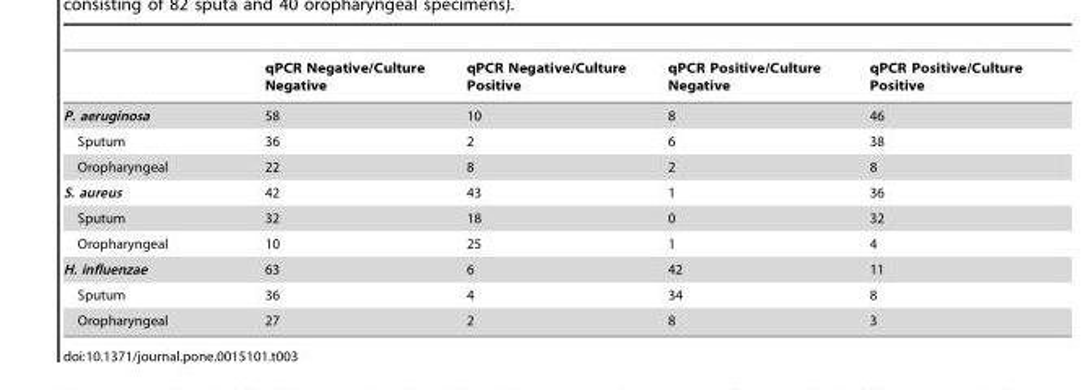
<table><thead><tr><td></td><td>qPCR Negative/Culture Negative</td><td>qPCR Negative/Culture Positive</td><td>qPCR Positive/Culture Negative</td><td>qPCR Positive/Culture Positive</td></tr></thead><tbody><tr><td>P. aeruginosa</td><td>58</td><td>10</td><td>8</td><td>46</td></tr><tr><td>Sputum</td><td>36</td><td>2</td><td>6</td><td>38</td></tr><tr><td>Oropharyngeal</td><td>22</td><td>8</td><td>2</td><td>8</td></tr><tr><td>S. aureus</td><td>42</td><td>43</td><td>1</td><td>36</td></tr><tr><td>Sputum</td><td>32</td><td>18</td><td>0</td><td>32</td></tr><tr><td>Oropharyngeal</td><td>10</td><td>25</td><td>1</td><td>4</td></tr><tr><td>H. influenzae</td><td>63</td><td>6</td><td>42</td><td>11</td></tr><tr><td>Sputum</td><td>36</td><td>4</td><td>34</td><td>8</td></tr><tr><td>Oropharyngeal</td><td>27</td><td>2</td><td>8</td><td>3</td></tr></tbody></table>